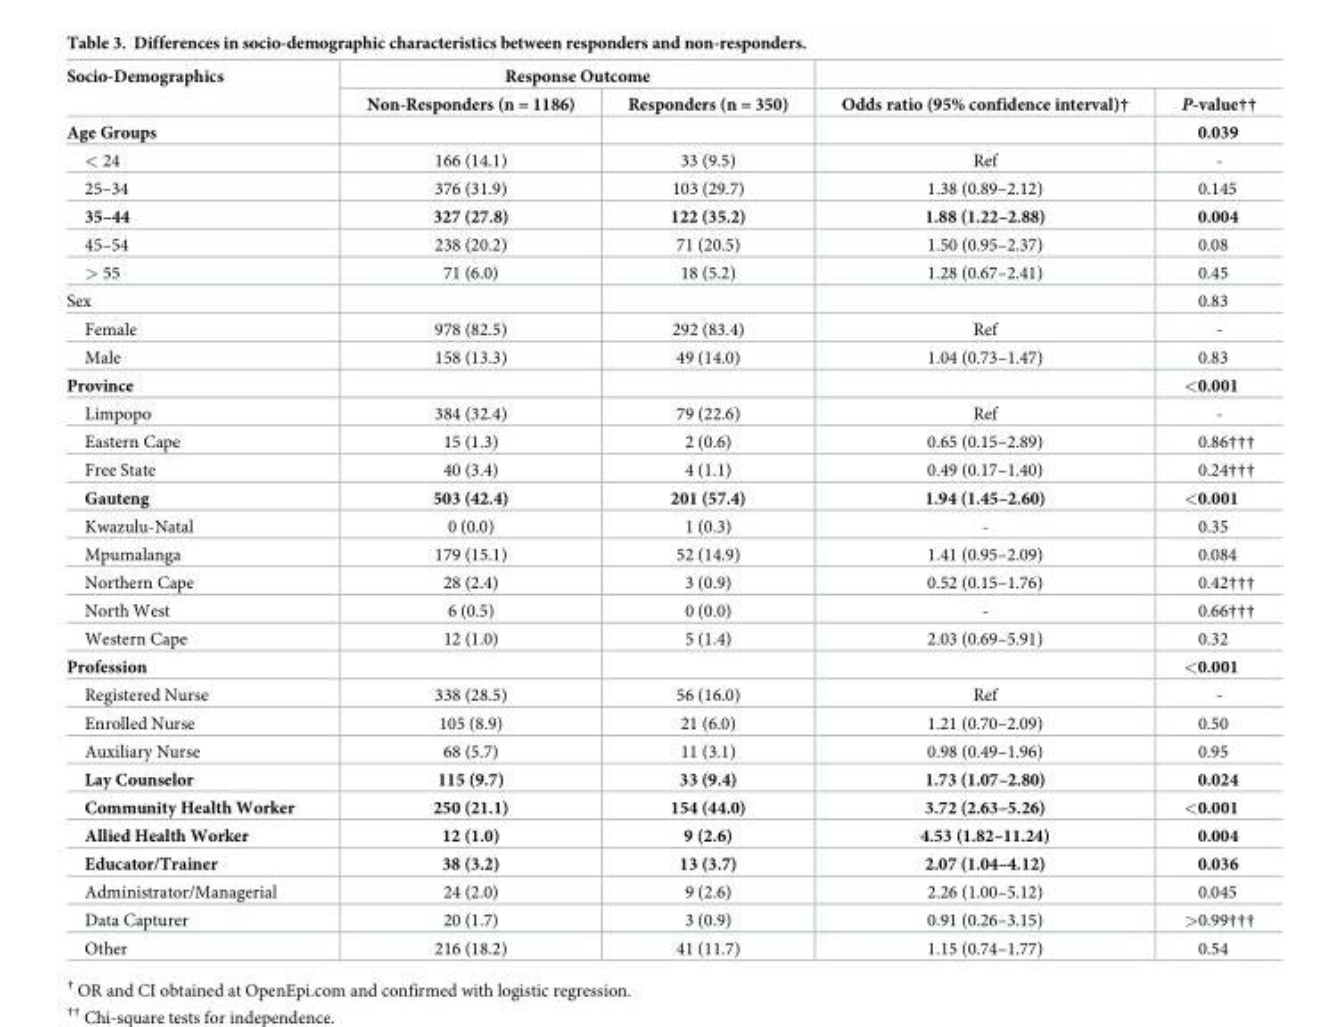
<table><thead><tr><td rowspan="2">Socio-Demographics</td><td colspan="2">Response Outcome</td><td rowspan="2">Odds ratio (95% confidence interval)†</td><td rowspan="2">P-value††</td></tr><tr><td>Non-Responders (n = 1186)</td><td>Responders (n = 350)</td></tr></thead><tbody><tr><td>Age Groups</td><td></td><td></td><td></td><td>0.039</td></tr><tr><td>&lt; 24</td><td>166 (14.1)</td><td>33 (9.5)</td><td>Ref</td><td>-</td></tr><tr><td>25–34</td><td>376 (31.9)</td><td>103 (29.7)</td><td>1.38 (0.89–2.12)</td><td>0.145</td></tr><tr><td>35–44</td><td>327 (27.8)</td><td>122 (35.2)</td><td>1.88 (1.22–2.88)</td><td>0.004</td></tr><tr><td>45–54</td><td>238 (20.2)</td><td>71 (20.5)</td><td>1.50 (0.95–2.37)</td><td>0.08</td></tr><tr><td>&gt; 55</td><td>71 (6.0)</td><td>18 (5.2)</td><td>1.28 (0.67–2.41)</td><td>0.45</td></tr><tr><td>Sex</td><td></td><td></td><td></td><td>0.83</td></tr><tr><td>Female</td><td>978 (82.5)</td><td>292 (83.4)</td><td>Ref</td><td>-</td></tr><tr><td>Male</td><td>158 (13.3)</td><td>49 (14.0)</td><td>1.04 (0.73–1.47)</td><td>0.83</td></tr><tr><td>Province</td><td></td><td></td><td></td><td>&lt;0.001</td></tr><tr><td>Limpopo</td><td>384 (32.4)</td><td>79 (22.6)</td><td>Ref</td><td>-</td></tr><tr><td>Eastern Cape</td><td>15 (1.3)</td><td>2 (0.6)</td><td>0.65 (0.15–2.89)</td><td>0.86†††</td></tr><tr><td>Free State</td><td>40 (3.4)</td><td>4 (1.1)</td><td>0.49 (0.17–1.40)</td><td>0.24†††</td></tr><tr><td>Gauteng</td><td>503 (42.4)</td><td>201 (57.4)</td><td>1.94 (1.45–2.60)</td><td>&lt;0.001</td></tr><tr><td>Kwazulu-Natal</td><td>0 (0.0)</td><td>1 (0.3)</td><td>-</td><td>0.35</td></tr><tr><td>Mpumalanga</td><td>179 (15.1)</td><td>52 (14.9)</td><td>1.41 (0.95–2.09)</td><td>0.084</td></tr><tr><td>Northern Cape</td><td>28 (2.4)</td><td>3 (0.9)</td><td>0.52 (0.15–1.76)</td><td>0.42†††</td></tr><tr><td>North West</td><td>6 (0.5)</td><td>0 (0.0)</td><td>-</td><td>0.66†††</td></tr><tr><td>Western Cape</td><td>12 (1.0)</td><td>5 (1.4)</td><td>2.03 (0.69–5.91)</td><td>0.32</td></tr><tr><td>Profession</td><td></td><td></td><td></td><td>&lt;0.001</td></tr><tr><td>Registered Nurse</td><td>338 (28.5)</td><td>56 (16.0)</td><td>Ref</td><td>-</td></tr><tr><td>Enrolled Nurse</td><td>105 (8.9)</td><td>21 (6.0)</td><td>1.21 (0.70–2.09)</td><td>0.50</td></tr><tr><td>Auxiliary Nurse</td><td>68 (5.7)</td><td>11 (3.1)</td><td>0.98 (0.49–1.96)</td><td>0.95</td></tr><tr><td>Lay Counselor</td><td>115 (9.7)</td><td>33 (9.4)</td><td>1.73 (1.07–2.80)</td><td>0.024</td></tr><tr><td>Community Health Worker</td><td>250 (21.1)</td><td>154 (44.0)</td><td>3.72 (2.63–5.26)</td><td>&lt;0.001</td></tr><tr><td>Allied Health Worker</td><td>12 (1.0)</td><td>9 (2.6)</td><td>4.53 (1.82–11.24)</td><td>0.004</td></tr><tr><td>Educator/Trainer</td><td>38 (3.2)</td><td>13 (3.7)</td><td>2.07 (1.04–4.12)</td><td>0.036</td></tr><tr><td>Administrator/Managerial</td><td>24 (2.0)</td><td>9 (2.6)</td><td>2.26 (1.00–5.12)</td><td>0.045</td></tr><tr><td>Data Capturer</td><td>20 (1.7)</td><td>3 (0.9)</td><td>0.91 (0.26–3.15)</td><td>&gt;0.99†††</td></tr><tr><td>Other</td><td>216 (18.2)</td><td>41 (11.7)</td><td>1.15 (0.74–1.77)</td><td>0.54</td></tr></tbody></table>